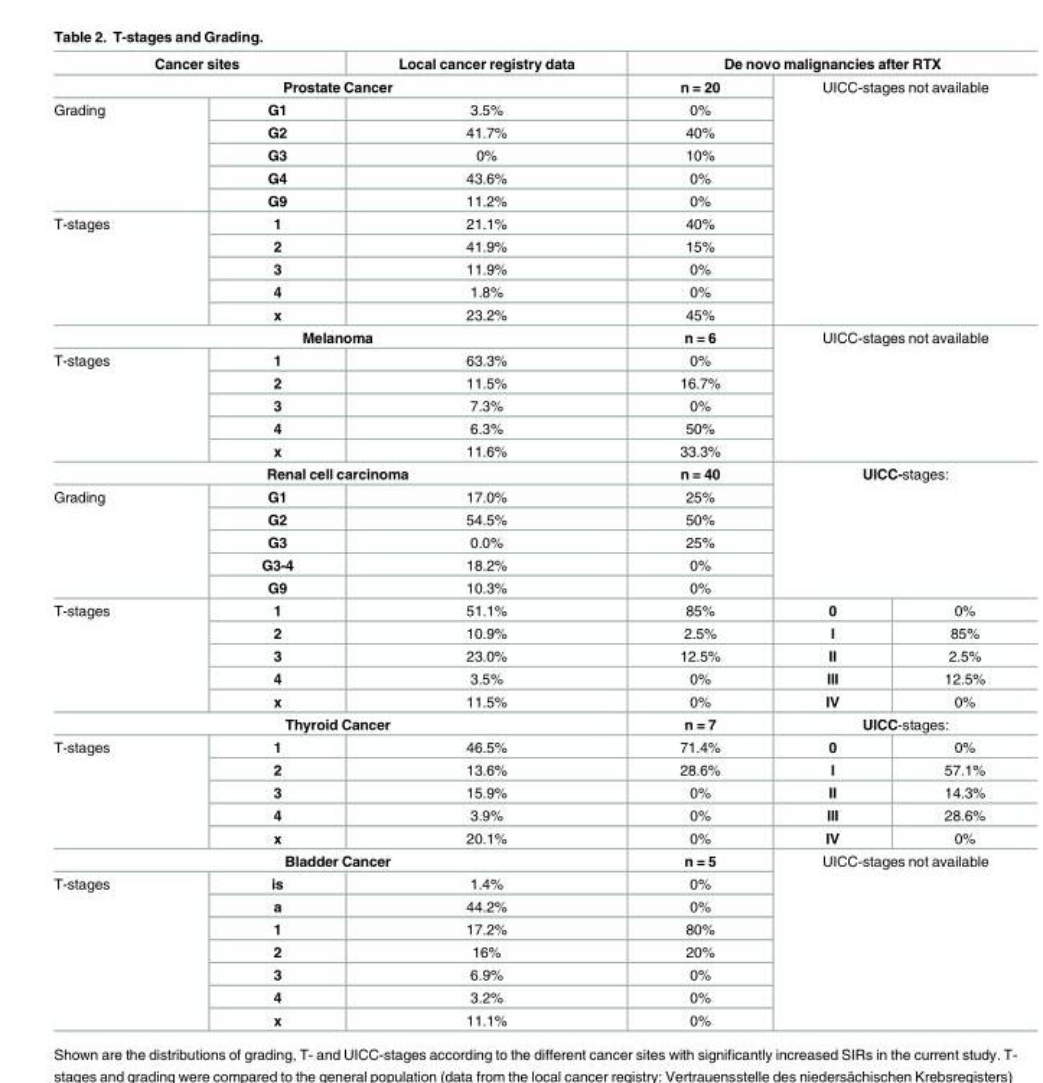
<table><thead><tr><td colspan="2">Cancer sites</td><td>Local cancer registry data</td><td colspan="3">De novo malignancies after RTX</td></tr></thead><tbody><tr><td colspan="3">Prostate Cancer</td><td>n = 20</td><td rowspan="11" colspan="2">UICC-stages not available</td></tr><tr><td rowspan="5">Grading</td><td>G1</td><td>3.5%</td><td>0%</td></tr><tr><td>G2</td><td>41.7%</td><td>40%</td></tr><tr><td>G3</td><td>0%</td><td>10%</td></tr><tr><td>G4</td><td>43.6%</td><td>0%</td></tr><tr><td>G9</td><td>11.2%</td><td>0%</td></tr><tr><td rowspan="5">T-stages</td><td>1</td><td>21.1%</td><td>40%</td></tr><tr><td>2</td><td>41.9%</td><td>15%</td></tr><tr><td>3</td><td>11.9%</td><td>0%</td></tr><tr><td>4</td><td>1.8%</td><td>0%</td></tr><tr><td>x</td><td>23.2%</td><td>45%</td></tr><tr><td colspan="3">Melanoma</td><td>n = 6</td><td rowspan="6" colspan="2">UICC-stages not available</td></tr><tr><td rowspan="5">T-stages</td><td>1</td><td>63.3%</td><td>0%</td></tr><tr><td>2</td><td>11.5%</td><td>16.7%</td></tr><tr><td>3</td><td>7.3%</td><td>0%</td></tr><tr><td>4</td><td>6.3%</td><td>50%</td></tr><tr><td>x</td><td>11.6%</td><td>33.3%</td></tr><tr><td colspan="3">Renal cell carcinoma</td><td>n = 40</td><td rowspan="6" colspan="2">UICC-stages:</td></tr><tr><td rowspan="5">Grading</td><td>G1</td><td>17.0%</td><td>25%</td></tr><tr><td>G2</td><td>54.5%</td><td>50%</td></tr><tr><td>G3</td><td>0.0%</td><td>25%</td></tr><tr><td>G3-4</td><td>18.2%</td><td>0%</td></tr><tr><td>G9</td><td>10.3%</td><td>0%</td></tr><tr><td rowspan="5">T-stages</td><td>1</td><td>51.1%</td><td>85%</td><td>0</td><td>0%</td></tr><tr><td>2</td><td>10.9%</td><td>2.5%</td><td>I</td><td>85%</td></tr><tr><td>3</td><td>23.0%</td><td>12.5%</td><td>II</td><td>2.5%</td></tr><tr><td>4</td><td>3.5%</td><td>0%</td><td>III</td><td>12.5%</td></tr><tr><td>x</td><td>11.5%</td><td>0%</td><td>IV</td><td>0%</td></tr><tr><td colspan="3">Thyroid Cancer</td><td>n = 7</td><td colspan="2">UICC-stages:</td></tr><tr><td rowspan="5">T-stages</td><td>1</td><td>46.5%</td><td>71.4%</td><td>0</td><td>0%</td></tr><tr><td>2</td><td>13.6%</td><td>28.6%</td><td>I</td><td>57.1%</td></tr><tr><td>3</td><td>15.9%</td><td>0%</td><td>II</td><td>14.3%</td></tr><tr><td>4</td><td>3.9%</td><td>0%</td><td>III</td><td>28.6%</td></tr><tr><td>x</td><td>20.1%</td><td>0%</td><td>IV</td><td>0%</td></tr><tr><td colspan="3">Bladder Cancer</td><td>n = 5</td><td rowspan="8" colspan="2">UICC-stages not available</td></tr><tr><td rowspan="7">T-stages</td><td>is</td><td>1.4%</td><td>0%</td></tr><tr><td>a</td><td>44.2%</td><td>0%</td></tr><tr><td>1</td><td>17.2%</td><td>80%</td></tr><tr><td>2</td><td>16%</td><td>20%</td></tr><tr><td>3</td><td>6.9%</td><td>0%</td></tr><tr><td>4</td><td>3.2%</td><td>0%</td></tr><tr><td>x</td><td>11.1%</td><td>0%</td></tr></tbody></table>